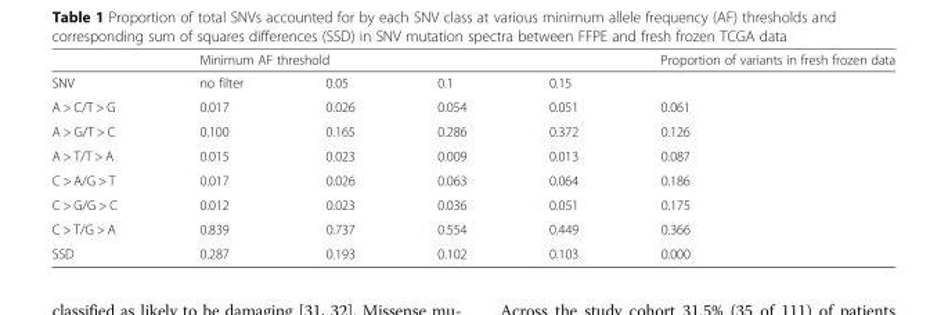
<table><thead><tr><td rowspan="2">SNV</td><td colspan="4">Minimum AF threshold</td><td rowspan="2">Proportion of variants in fresh frozen data</td></tr><tr><td>no filter</td><td>0.05</td><td>0.1</td><td>0.15</td></tr></thead><tbody><tr><td>A &gt; C/T &gt; G</td><td>0.017</td><td>0.026</td><td>0.054</td><td>0.051</td><td>0.061</td></tr><tr><td>A &gt; G/T &gt; C</td><td>0.100</td><td>0.165</td><td>0.286</td><td>0.372</td><td>0.126</td></tr><tr><td>A &gt; T/T &gt; A</td><td>0.015</td><td>0.023</td><td>0.009</td><td>0.013</td><td>0.087</td></tr><tr><td>C &gt; A/G &gt; T</td><td>0.017</td><td>0.026</td><td>0.063</td><td>0.064</td><td>0.186</td></tr><tr><td>C &gt; G/G &gt; C</td><td>0.012</td><td>0.023</td><td>0.036</td><td>0.051</td><td>0.175</td></tr><tr><td>C &gt; T/G &gt; A</td><td>0.839</td><td>0.737</td><td>0.554</td><td>0.449</td><td>0.366</td></tr><tr><td>SSD</td><td>0.287</td><td>0.193</td><td>0.102</td><td>0.103</td><td>0.000</td></tr></tbody></table>